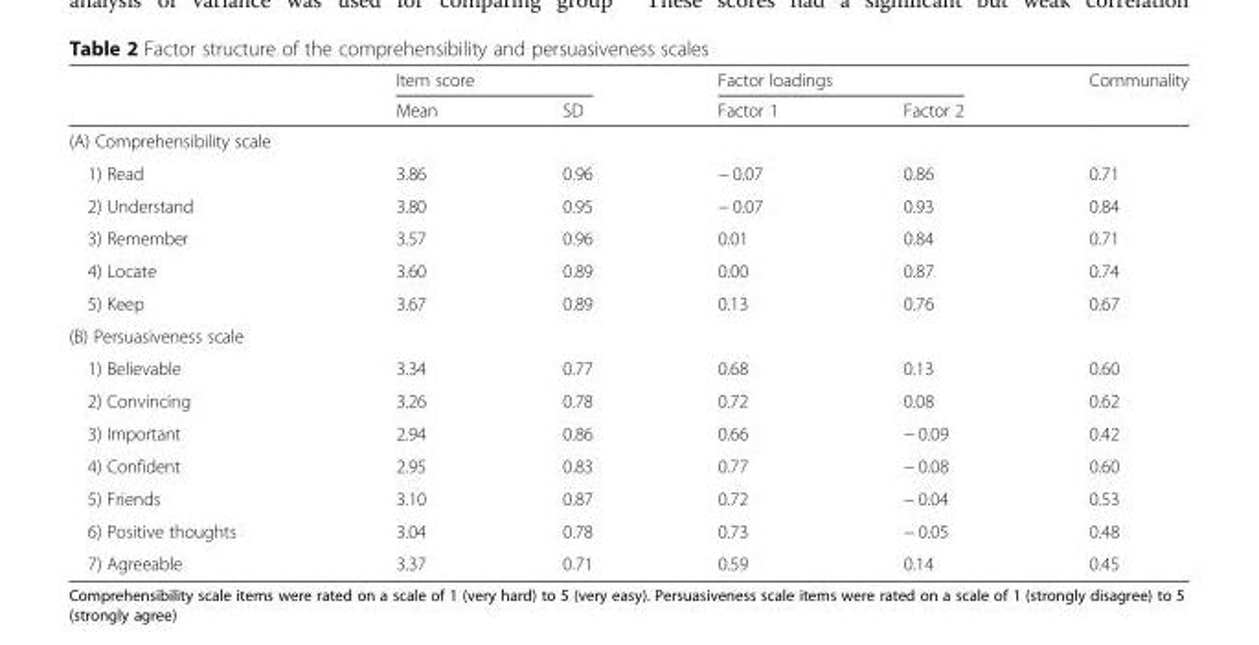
<table><thead><tr><td rowspan="2"></td><td colspan="2">Item score</td><td colspan="2">Factor loadings</td><td rowspan="2">Communality</td></tr><tr><td>Mean</td><td>SD</td><td>Factor 1</td><td>Factor 2</td></tr></thead><tbody><tr><td colspan="6">(A) Comprehensibility scale</td></tr><tr><td>1) Read</td><td>3.86</td><td>0.96</td><td>− 0.07</td><td>0.86</td><td>0.71</td></tr><tr><td>2) Understand</td><td>3.80</td><td>0.95</td><td>− 0.07</td><td>0.93</td><td>0.84</td></tr><tr><td>3) Remember</td><td>3.57</td><td>0.96</td><td>0.01</td><td>0.84</td><td>0.71</td></tr><tr><td>4) Locate</td><td>3.60</td><td>0.89</td><td>0.00</td><td>0.87</td><td>0.74</td></tr><tr><td>5) Keep</td><td>3.67</td><td>0.89</td><td>0.13</td><td>0.76</td><td>0.67</td></tr><tr><td colspan="6">(B) Persuasiveness scale</td></tr><tr><td>1) Believable</td><td>3.34</td><td>0.77</td><td>0.68</td><td>0.13</td><td>0.60</td></tr><tr><td>2) Convincing</td><td>3.26</td><td>0.78</td><td>0.72</td><td>0.08</td><td>0.62</td></tr><tr><td>3) Important</td><td>2.94</td><td>0.86</td><td>0.66</td><td>− 0.09</td><td>0.42</td></tr><tr><td>4) Confident</td><td>2.95</td><td>0.83</td><td>0.77</td><td>− 0.08</td><td>0.60</td></tr><tr><td>5) Friends</td><td>3.10</td><td>0.87</td><td>0.72</td><td>− 0.04</td><td>0.53</td></tr><tr><td>6) Positive thoughts</td><td>3.04</td><td>0.78</td><td>0.73</td><td>− 0.05</td><td>0.48</td></tr><tr><td>7) Agreeable</td><td>3.37</td><td>0.71</td><td>0.59</td><td>0.14</td><td>0.45</td></tr></tbody></table>